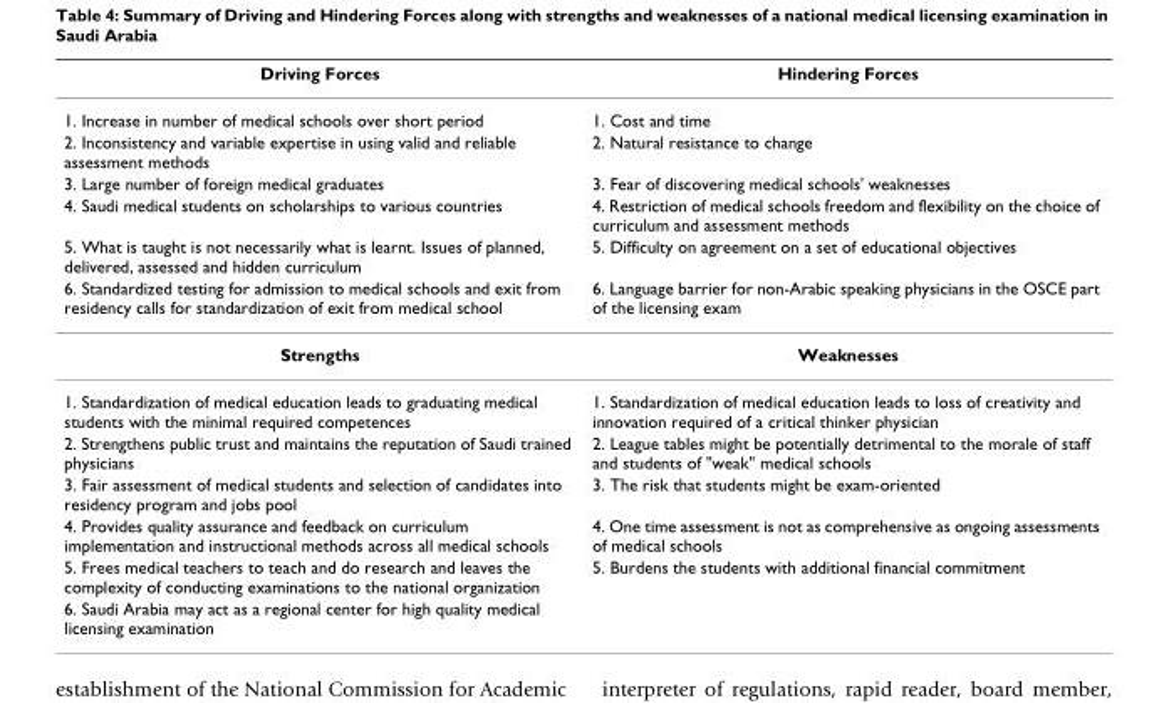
<table><thead><tr><td>Driving Forces</td><td>Hindering Forces</td></tr></thead><tbody><tr><td>1. Increase in number of medical schools over short period</td><td>1. Cost and time</td></tr><tr><td>2. Inconsistency and variable expertise in using valid and reliable assessment methods</td><td>2. Natural resistance to change</td></tr><tr><td>3. Large number of foreign medical graduates</td><td>3. Fear of discovering medical schools&#x27; weaknesses</td></tr><tr><td>4. Saudi medical students on scholarships to various countries</td><td>4. Restriction of medical schools freedom and flexibility on the choice of curriculum and assessment methods</td></tr><tr><td>5. What is taught is not necessarily what is learnt. Issues of planned, delivered, assessed and hidden curriculum</td><td>5. Difficulty on agreement on a set of educational objectives</td></tr><tr><td>6. Standardized testing for admission to medical schools and exit from residency calls for standardization of exit from medical school</td><td>6. Language barrier for non-Arabic speaking physicians in the OSCE part of the licensing exam</td></tr><tr><td>Strengths</td><td>Weaknesses</td></tr><tr><td>1. Standardization of medical education leads to graduating medical students with the minimal required competences</td><td>1. Standardization of medical education leads to loss of creativity and innovation required of a critical thinker physician</td></tr><tr><td>2. Strengthens public trust and maintains the reputation of Saudi trained physicians</td><td>2. League tables might be potentially detrimental to the morale of staff and students of &quot;weak&quot; medical schools</td></tr><tr><td>3. Fair assessment of medical students and selection of candidates into residency program and jobs pool</td><td>3. The risk that students might be exam-oriented</td></tr><tr><td>4. Provides quality assurance and feedback on curriculum implementation and instructional methods across all medical schools</td><td>4. One time assessment is not as comprehensive as ongoing assessments of medical schools</td></tr><tr><td>5. Frees medical teachers to teach and do research and leaves the complexity of conducting examinations to the national organization</td><td>5. Burdens the students with additional financial commitment</td></tr><tr><td>6. Saudi Arabia may act as a regional center for high quality medical licensing examination</td><td></td></tr></tbody></table>